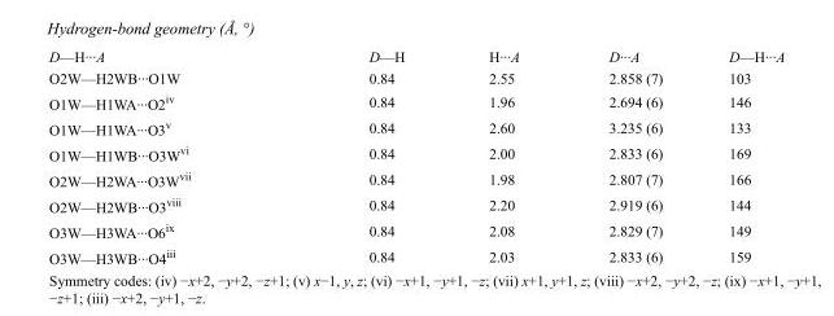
<table><tbody><tr><td>D—H···A</td><td>D—H</td><td>H···A</td><td>D···A</td><td>D—H···A</td></tr><tr><td>O2W—H2WB···O1W</td><td>0.84</td><td>2.55</td><td>2.858 (7)</td><td>103</td></tr><tr><td>O1W—H1WA···O2<sup>iv</sup></td><td>0.84</td><td>1.96</td><td>2.694 (6)</td><td>146</td></tr><tr><td>O1W—H1WA···O3<sup>v</sup></td><td>0.84</td><td>2.60</td><td>3.235 (6)</td><td>133</td></tr><tr><td>O1W—H1WB···O3W<sup>vi</sup></td><td>0.84</td><td>2.00</td><td>2.833 (6)</td><td>169</td></tr><tr><td>O2W—H2WA···O3W<sup>vii</sup></td><td>0.84</td><td>1.98</td><td>2.807 (7)</td><td>166</td></tr><tr><td>O2W—H2WB···O3<sup>viii</sup></td><td>0.84</td><td>2.20</td><td>2.919 (6)</td><td>144</td></tr><tr><td>O3W—H3WA···O6<sup>ix</sup></td><td>0.84</td><td>2.08</td><td>2.829 (7)</td><td>149</td></tr><tr><td>O3W—H3WB···O4<sup>iii</sup></td><td>0.84</td><td>2.03</td><td>2.833 (6)</td><td>159</td></tr></tbody></table>